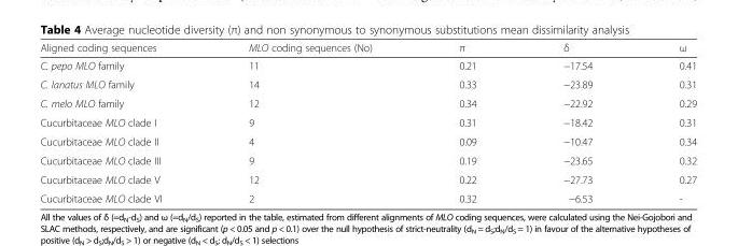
<table><thead><tr><td>Aligned coding sequences</td><td>MLO coding sequences (No)</td><td>π</td><td>δ</td><td>ω</td></tr></thead><tbody><tr><td>C. pepo MLO family</td><td>11</td><td>0.21</td><td>−17.54</td><td>0.41</td></tr><tr><td>C. lanatus MLO family</td><td>14</td><td>0.33</td><td>−23.89</td><td>0.31</td></tr><tr><td>C. melo MLO family</td><td>12</td><td>0.34</td><td>−22.92</td><td>0.29</td></tr><tr><td>Cucurbitaceae MLO clade I</td><td>9</td><td>0.31</td><td>−18.42</td><td>0.31</td></tr><tr><td>Cucurbitaceae MLO clade II</td><td>4</td><td>0.09</td><td>−10.47</td><td>0.34</td></tr><tr><td>Cucurbitaceae MLO clade III</td><td>9</td><td>0.19</td><td>−23.65</td><td>0.32</td></tr><tr><td>Cucurbitaceae MLO clade V</td><td>12</td><td>0.22</td><td>−27.73</td><td>0.27</td></tr><tr><td>Cucurbitaceae MLO clade VI</td><td>2</td><td>0.32</td><td>−6.53</td><td>-</td></tr></tbody></table>